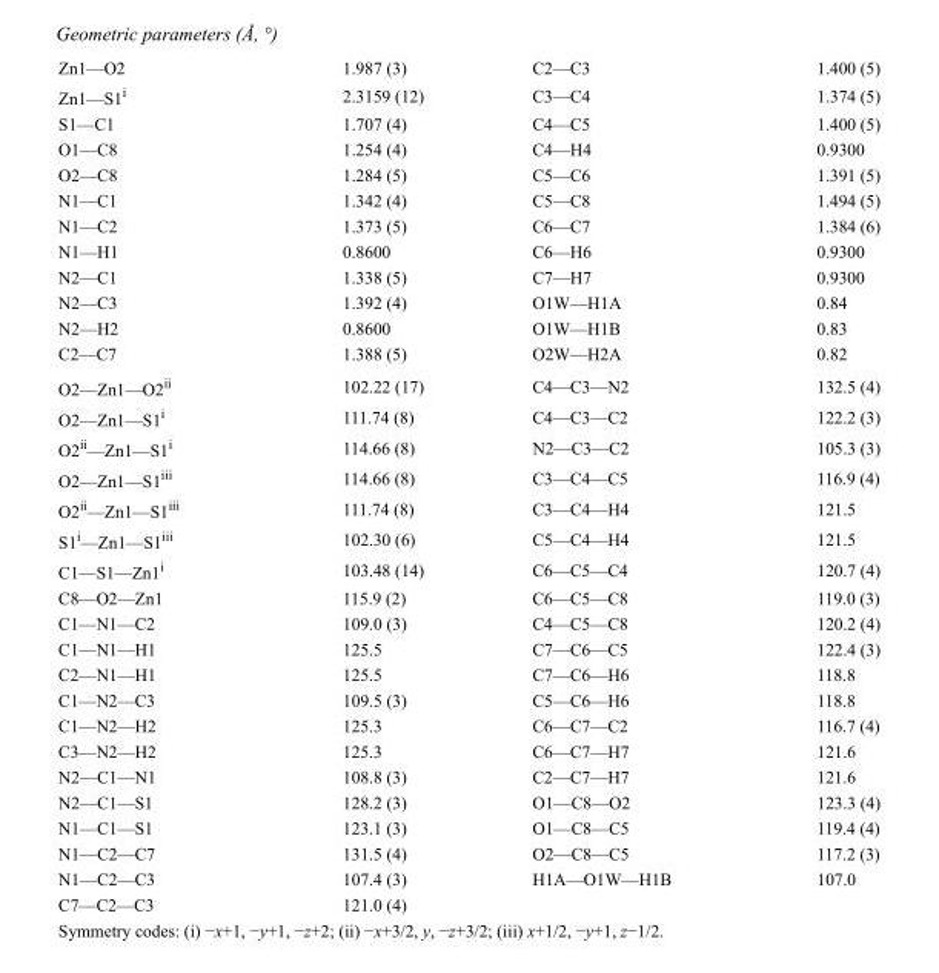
<table><tbody><tr><td>Zn1—O2</td><td>1.987 (3)</td><td>C2—C3</td><td>1.400 (5)</td></tr><tr><td>Zn1—S1<sup>i</sup></td><td>2.3159 (12)</td><td>C3—C4</td><td>1.374 (5)</td></tr><tr><td>S1—C1</td><td>1.707 (4)</td><td>C4—C5</td><td>1.400 (5)</td></tr><tr><td>O1—C8</td><td>1.254 (4)</td><td>C4—H4</td><td>0.9300</td></tr><tr><td>O2—C8</td><td>1.284 (5)</td><td>C5—C6</td><td>1.391 (5)</td></tr><tr><td>N1—C1</td><td>1.342 (4)</td><td>C5—C8</td><td>1.494 (5)</td></tr><tr><td>N1—C2</td><td>1.373 (5)</td><td>C6—C7</td><td>1.384 (6)</td></tr><tr><td>N1—H1</td><td>0.8600</td><td>C6—H6</td><td>0.9300</td></tr><tr><td>N2—C1</td><td>1.338 (5)</td><td>C7—H7</td><td>0.9300</td></tr><tr><td>N2—C3</td><td>1.392 (4)</td><td>O1W—H1A</td><td>0.84</td></tr><tr><td>N2—H2</td><td>0.8600</td><td>O1W—H1B</td><td>0.83</td></tr><tr><td>C2—C7</td><td>1.388 (5)</td><td>O2W—H2A</td><td>0.82</td></tr><tr><td>O2—Zn1—O2<sup>ii</sup></td><td>102.22 (17)</td><td>C4—C3—N2</td><td>132.5 (4)</td></tr><tr><td>O2—Zn1—S1<sup>i</sup></td><td>111.74 (8)</td><td>C4—C3—C2</td><td>122.2 (3)</td></tr><tr><td>O2<sup>ii</sup>—Zn1—S1<sup>i</sup></td><td>114.66 (8)</td><td>N2—C3—C2</td><td>105.3 (3)</td></tr><tr><td>O2—Zn1—S1<sup>iii</sup></td><td>114.66 (8)</td><td>C3—C4—C5</td><td>116.9 (4)</td></tr><tr><td>O2<sup>ii</sup>—Zn1—S1<sup>iii</sup></td><td>111.74 (8)</td><td>C3—C4—H4</td><td>121.5</td></tr><tr><td>S1<sup>i</sup>—Zn1—S1<sup>iii</sup></td><td>102.30 (6)</td><td>C5—C4—H4</td><td>121.5</td></tr><tr><td>C1—S1—Zn1<sup>i</sup></td><td>103.48 (14)</td><td>C6—C5—C4</td><td>120.7 (4)</td></tr><tr><td>C8—O2—Zn1</td><td>115.9 (2)</td><td>C6—C5—C8</td><td>119.0 (3)</td></tr><tr><td>C1—N1—C2</td><td>109.0 (3)</td><td>C4—C5—C8</td><td>120.2 (4)</td></tr><tr><td>C1—N1—H1</td><td>125.5</td><td>C7—C6—C5</td><td>122.4 (3)</td></tr><tr><td>C2—N1—H1</td><td>125.5</td><td>C7—C6—H6</td><td>118.8</td></tr><tr><td>C1—N2—C3</td><td>109.5 (3)</td><td>C5—C6—H6</td><td>118.8</td></tr><tr><td>C1—N2—H2</td><td>125.3</td><td>C6—C7—C2</td><td>116.7 (4)</td></tr><tr><td>C3—N2—H2</td><td>125.3</td><td>C6—C7—H7</td><td>121.6</td></tr><tr><td>N2—C1—N1</td><td>108.8 (3)</td><td>C2—C7—H7</td><td>121.6</td></tr><tr><td>N2—C1—S1</td><td>128.2 (3)</td><td>O1—C8—O2</td><td>123.3 (4)</td></tr><tr><td>N1—C1—S1</td><td>123.1 (3)</td><td>O1—C8—C5</td><td>119.4 (4)</td></tr><tr><td>N1—C2—C7</td><td>131.5 (4)</td><td>O2—C8—C5</td><td>117.2 (3)</td></tr><tr><td>N1—C2—C3</td><td>107.4 (3)</td><td>H1A—O1W—H1B</td><td>107.0</td></tr><tr><td>C7—C2—C3</td><td>121.0 (4)</td><td></td><td></td></tr></tbody></table>